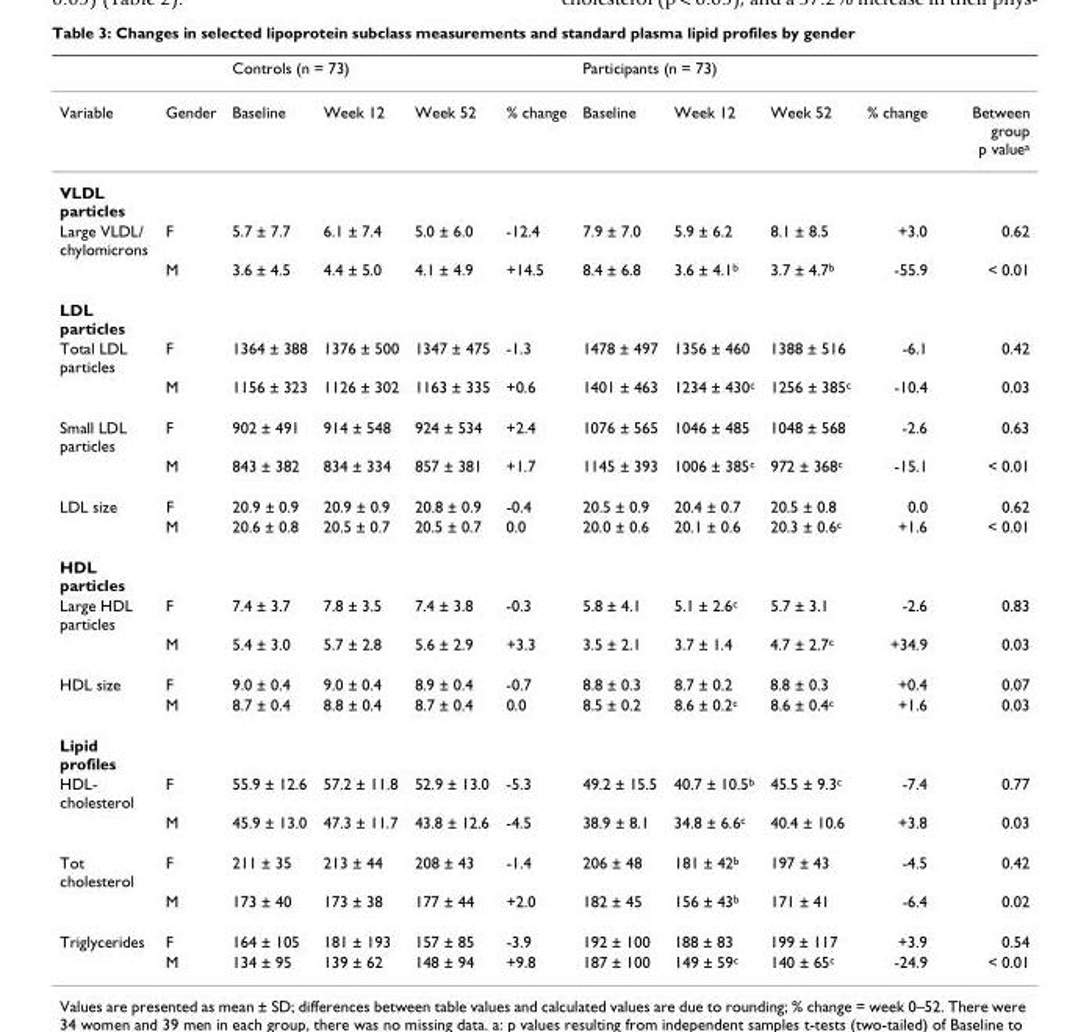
<table><thead><tr><td rowspan="2">Variable</td><td rowspan="2">Gender</td><td colspan="4">Controls (n = 73)</td><td colspan="5">Participants (n = 73)</td></tr><tr><td>Baseline</td><td>Week 12</td><td>Week 52</td><td>% change</td><td>Baseline</td><td>Week 12</td><td>Week 52</td><td>% change</td><td>Between group p value<sup>a</sup></td></tr></thead><tbody><tr><td colspan="11">VLDL particles</td></tr><tr><td rowspan="2">Large VLDL/ chylomicrons</td><td>F</td><td>5.7 ± 7.7</td><td>6.1 ± 7.4</td><td>5.0 ± 6.0</td><td>-12.4</td><td>7.9 ± 7.0</td><td>5.9 ± 6.2</td><td>8.1 ± 8.5</td><td>+3.0</td><td>0.62</td></tr><tr><td>M</td><td>3.6 ± 4.5</td><td>4.4 ± 5.0</td><td>4.1 ± 4.9</td><td>+14.5</td><td>8.4 ± 6.8</td><td>3.6 ± 4.1<sup>b</sup></td><td>3.7 ± 4.7<sup>b</sup></td><td>-55.9</td><td>&lt; 0.01</td></tr><tr><td colspan="11">LDL particles</td></tr><tr><td rowspan="2">Total LDL particles</td><td>F</td><td>1364 ± 388</td><td>1376 ± 500</td><td>1347 ± 475</td><td>-1.3</td><td>1478 ± 497</td><td>1356 ± 460</td><td>1388 ± 516</td><td>-6.1</td><td>0.42</td></tr><tr><td>M</td><td>1156 ± 323</td><td>1126 ± 302</td><td>1163 ± 335</td><td>+0.6</td><td>1401 ± 463</td><td>1234 ± 430<sup>c</sup></td><td>1256 ± 385<sup>c</sup></td><td>-10.4</td><td>0.03</td></tr><tr><td rowspan="2">Small LDL particles</td><td>F</td><td>902 ± 491</td><td>914 ± 548</td><td>924 ± 534</td><td>+2.4</td><td>1076 ± 565</td><td>1046 ± 485</td><td>1048 ± 568</td><td>-2.6</td><td>0.63</td></tr><tr><td>M</td><td>843 ± 382</td><td>834 ± 334</td><td>857 ± 381</td><td>+1.7</td><td>1145 ± 393</td><td>1006 ± 385<sup>c</sup></td><td>972 ± 368<sup>c</sup></td><td>-15.1</td><td>&lt; 0.01</td></tr><tr><td rowspan="2">LDL size</td><td>F</td><td>20.9 ± 0.9</td><td>20.9 ± 0.9</td><td>20.8 ± 0.9</td><td>-0.4</td><td>20.5 ± 0.9</td><td>20.4 ± 0.7</td><td>20.5 ± 0.8</td><td>0.0</td><td>0.62</td></tr><tr><td>M</td><td>20.6 ± 0.8</td><td>20.5 ± 0.7</td><td>20.5 ± 0.7</td><td>0.0</td><td>20.0 ± 0.6</td><td>20.1 ± 0.6</td><td>20.3 ± 0.6<sup>c</sup></td><td>+1.6</td><td>&lt; 0.01</td></tr><tr><td colspan="11">HDL particles</td></tr><tr><td rowspan="2">Large HDL particles</td><td>F</td><td>7.4 ± 3.7</td><td>7.8 ± 3.5</td><td>7.4 ± 3.8</td><td>-0.3</td><td>5.8 ± 4.1</td><td>5.1 ± 2.6<sup>c</sup></td><td>5.7 ± 3.1</td><td>-2.6</td><td>0.83</td></tr><tr><td>M</td><td>5.4 ± 3.0</td><td>5.7 ± 2.8</td><td>5.6 ± 2.9</td><td>+3.3</td><td>3.5 ± 2.1</td><td>3.7 ± 1.4</td><td>4.7 ± 2.7<sup>c</sup></td><td>+34.9</td><td>0.03</td></tr><tr><td rowspan="2">HDL size</td><td>F</td><td>9.0 ± 0.4</td><td>9.0 ± 0.4</td><td>8.9 ± 0.4</td><td>-0.7</td><td>8.8 ± 0.3</td><td>8.7 ± 0.2</td><td>8.8 ± 0.3</td><td>+0.4</td><td>0.07</td></tr><tr><td>M</td><td>8.7 ± 0.4</td><td>8.8 ± 0.4</td><td>8.7 ± 0.4</td><td>0.0</td><td>8.5 ± 0.2</td><td>8.6 ± 0.2<sup>c</sup></td><td>8.6 ± 0.4<sup>c</sup></td><td>+1.6</td><td>0.03</td></tr><tr><td colspan="11">Lipid profiles</td></tr><tr><td rowspan="2">HDL- cholesterol</td><td>F</td><td>55.9 ± 12.6</td><td>57.2 ± 11.8</td><td>52.9 ± 13.0</td><td>-5.3</td><td>49.2 ± 15.5</td><td>40.7 ± 10.5<sup>b</sup></td><td>45.5 ± 9.3<sup>c</sup></td><td>-7.4</td><td>0.77</td></tr><tr><td>M</td><td>45.9 ± 13.0</td><td>47.3 ± 11.7</td><td>43.8 ± 12.6</td><td>-4.5</td><td>38.9 ± 8.1</td><td>34.8 ± 6.6<sup>c</sup></td><td>40.4 ± 10.6</td><td>+3.8</td><td>0.03</td></tr><tr><td rowspan="2">Tot cholesterol</td><td>F</td><td>211 ± 35</td><td>213 ± 44</td><td>208 ± 43</td><td>-1.4</td><td>206 ± 48</td><td>181 ± 42<sup>b</sup></td><td>197 ± 43</td><td>-4.5</td><td>0.42</td></tr><tr><td>M</td><td>173 ± 40</td><td>173 ± 38</td><td>177 ± 44</td><td>+2.0</td><td>182 ± 45</td><td>156 ± 43<sup>b</sup></td><td>171 ± 41</td><td>-6.4</td><td>0.02</td></tr><tr><td rowspan="2">Triglycerides</td><td>F</td><td>164 ± 105</td><td>181 ± 193</td><td>157 ± 85</td><td>-3.9</td><td>192 ± 100</td><td>188 ± 83</td><td>199 ± 117</td><td>+3.9</td><td>0.54</td></tr><tr><td>M</td><td>134 ± 95</td><td>139 ± 62</td><td>148 ± 94</td><td>+9.8</td><td>187 ± 100</td><td>149 ± 59<sup>c</sup></td><td>140 ± 65<sup>c</sup></td><td>-24.9</td><td>&lt; 0.01</td></tr></tbody></table>